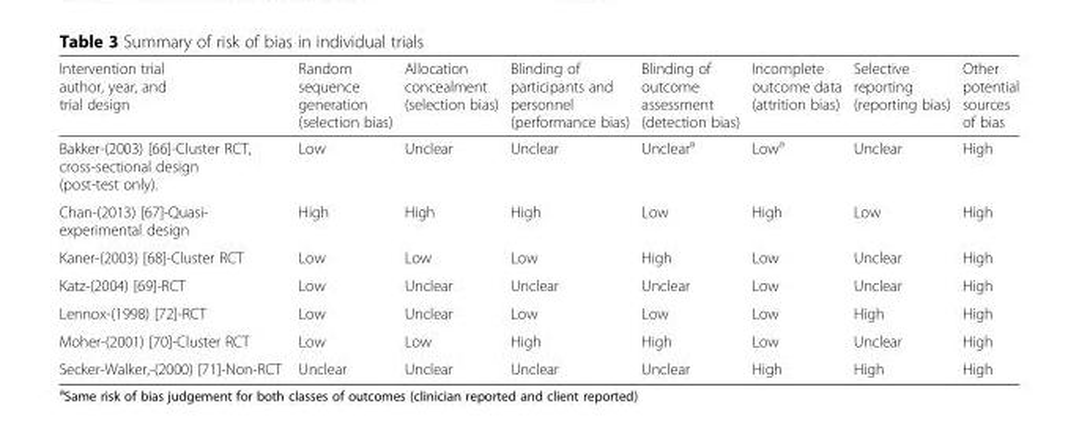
<table><thead><tr><td>Intervention trial author, year, and trial design</td><td>Random sequence generation (selection bias)</td><td>Allocation concealment (selection bias)</td><td>Blinding of participants and personnel (performance bias)</td><td>Blinding of outcome assessment (detection bias)</td><td>Incomplete outcome data (attrition bias)</td><td>Selective reporting (reporting bias)</td><td>Other potential sources of bias</td></tr></thead><tbody><tr><td>Bakker-(2003) [66]-Cluster RCT, cross-sectional design (post-test only).</td><td>Low</td><td>Unclear</td><td>Unclear</td><td>Unclear<sup>a</sup></td><td>Low<sup>a</sup></td><td>Unclear</td><td>High</td></tr><tr><td>Chan-(2013) [67]-Quasi- experimental design</td><td>High</td><td>High</td><td>High</td><td>Low</td><td>High</td><td>Low</td><td>High</td></tr><tr><td>Kaner-(2003) [68]-Cluster RCT</td><td>Low</td><td>Low</td><td>Low</td><td>High</td><td>Low</td><td>Unclear</td><td>High</td></tr><tr><td>Katz-(2004) [69]-RCT</td><td>Low</td><td>Unclear</td><td>Unclear</td><td>Unclear</td><td>Low</td><td>Unclear</td><td>High</td></tr><tr><td>Lennox-(1998) [72]-RCT</td><td>Low</td><td>Unclear</td><td>Low</td><td>Low</td><td>Low</td><td>High</td><td>High</td></tr><tr><td>Moher-(2001) [70]-Cluster RCT</td><td>Low</td><td>Low</td><td>High</td><td>High</td><td>Low</td><td>Unclear</td><td>High</td></tr><tr><td>Secker-Walker,-(2000) [71]-Non-RCT</td><td>Unclear</td><td>Unclear</td><td>Unclear</td><td>Unclear</td><td>High</td><td>High</td><td>High</td></tr></tbody></table>